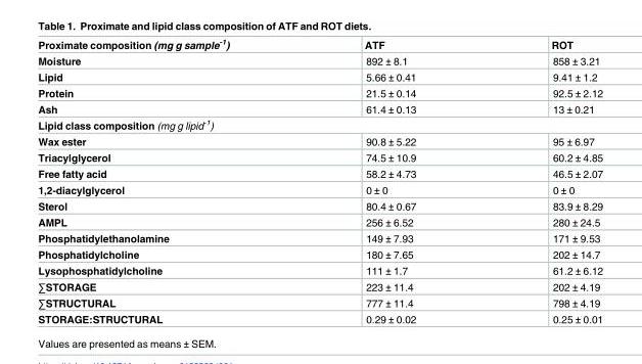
<table><thead><tr><td>Proximate composition (mg g sample<sup>-1</sup>)</td><td>ATF</td><td>ROT</td></tr></thead><tbody><tr><td>Moisture</td><td>892 ± 8.1</td><td>858 ± 3.21</td></tr><tr><td>Lipid</td><td>5.66 ± 0.41</td><td>9.41 ± 1.2</td></tr><tr><td>Protein</td><td>21.5 ± 0.14</td><td>92.5 ± 2.12</td></tr><tr><td>Ash</td><td>61.4 ± 0.13</td><td>13 ± 0.21</td></tr><tr><td colspan="3">Lipid class composition (mg g lipid<sup>-1</sup>)</td></tr><tr><td>Wax ester</td><td>90.8 ± 5.22</td><td>95 ± 6.97</td></tr><tr><td>Triacylglycerol</td><td>74.5 ± 10.9</td><td>60.2 ± 4.85</td></tr><tr><td>Free fatty acid</td><td>58.2 ± 4.73</td><td>46.5 ± 2.07</td></tr><tr><td>1,2-diacylglycerol</td><td>0 ± 0</td><td>0 ± 0</td></tr><tr><td>Sterol</td><td>80.4 ± 0.67</td><td>83.9 ± 8.29</td></tr><tr><td>AMPL</td><td>256 ± 6.52</td><td>280 ± 24.5</td></tr><tr><td>Phosphatidylethanolamine</td><td>149 ± 7.93</td><td>171 ± 9.53</td></tr><tr><td>Phosphatidylcholine</td><td>180 ± 7.65</td><td>202 ± 14.7</td></tr><tr><td>Lysophosphatidylcholine</td><td>111 ± 1.7</td><td>61.2 ± 6.12</td></tr><tr><td>∑STORAGE</td><td>223 ± 11.4</td><td>202 ± 4.19</td></tr><tr><td>∑STRUCTURAL</td><td>777 ± 11.4</td><td>798 ± 4.19</td></tr><tr><td>STORAGE:STRUCTURAL</td><td>0.29 ± 0.02</td><td>0.25 ± 0.01</td></tr></tbody></table>